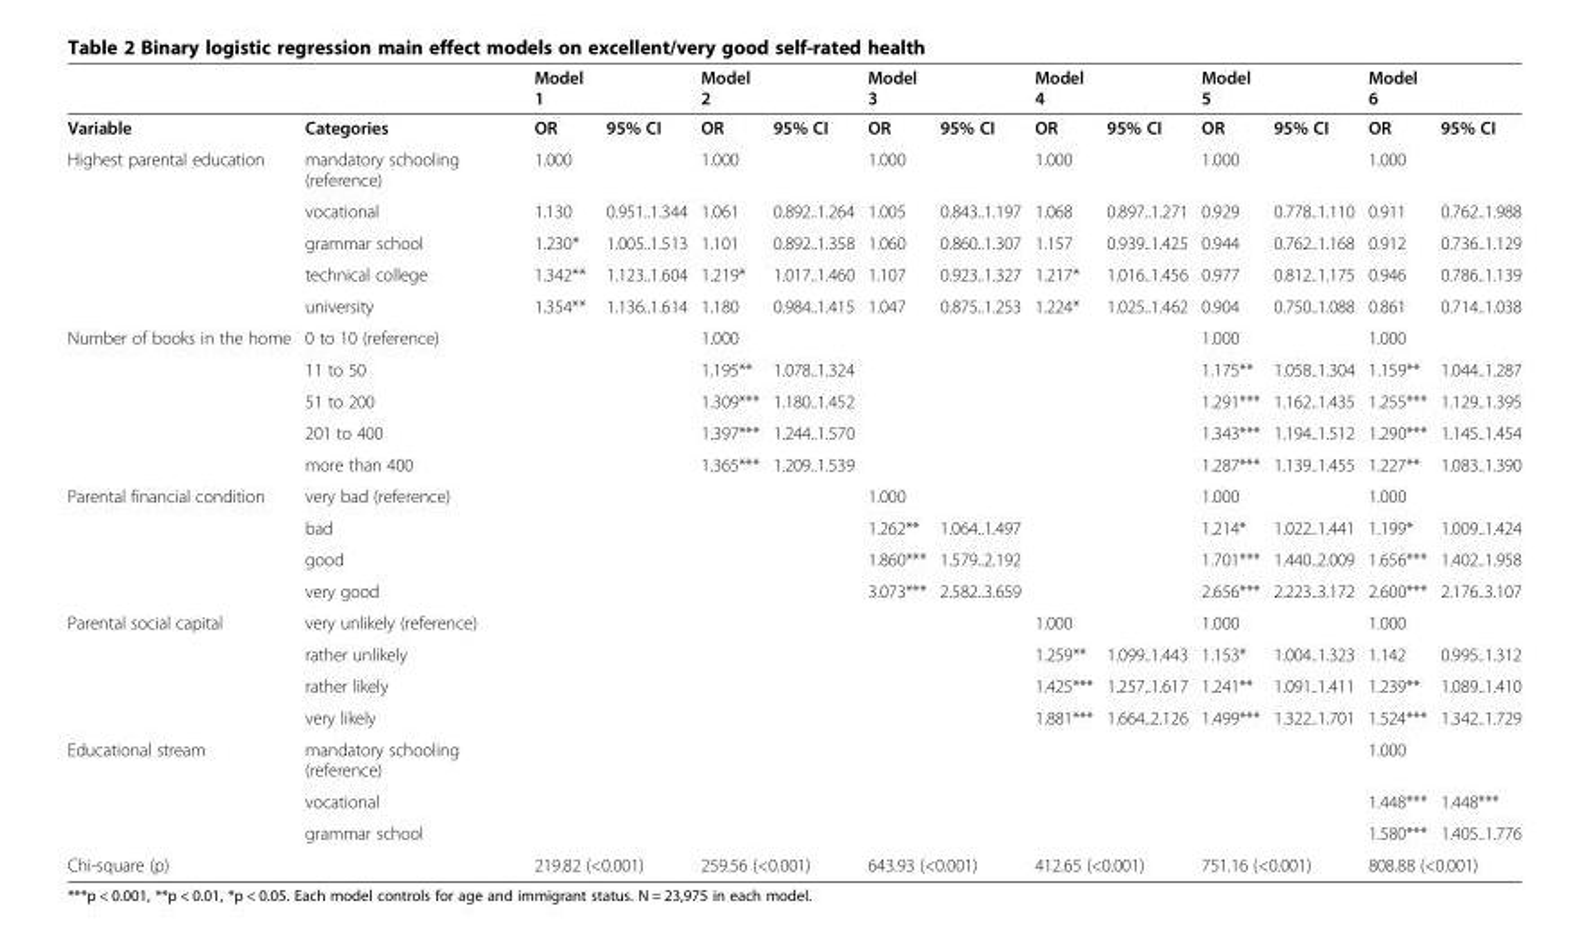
<table><thead><tr><td></td><td></td><td>Model 1</td><td></td><td>Model 2</td><td></td><td>Model 3</td><td></td><td>Model 4</td><td></td><td>Model 5</td><td></td><td>Model 6</td><td></td></tr></thead><tbody><tr><td>Variable</td><td>Categories</td><td>OR</td><td>95% CI</td><td>OR</td><td>95% CI</td><td>OR</td><td>95% CI</td><td>OR</td><td>95% CI</td><td>OR</td><td>95% CI</td><td>OR</td><td>95% CI</td></tr><tr><td rowspan="5">Highest parental education</td><td>mandatory schooling (reference)</td><td>1.000</td><td></td><td>1.000</td><td></td><td>1.000</td><td></td><td>1.000</td><td></td><td>1.000</td><td></td><td>1.000</td><td></td></tr><tr><td>vocational</td><td>1.130</td><td>0.951..1.344</td><td>1.061</td><td>0.892..1.264</td><td>1.005</td><td>0.843..1.197</td><td>1.068</td><td>0.897..1.271</td><td>0.929</td><td>0.778..1.110</td><td>0.911</td><td>0.762..1.988</td></tr><tr><td>grammar school</td><td>1.230*</td><td>1.005..1.513</td><td>1.101</td><td>0.892..1.358</td><td>1.060</td><td>0.860..1.307</td><td>1.157</td><td>0.939..1.425</td><td>0.944</td><td>0.762..1.168</td><td>0.912</td><td>0.736..1.129</td></tr><tr><td>technical college</td><td>1.342**</td><td>1.123..1.604</td><td>1.219*</td><td>1.017..1.460</td><td>1.107</td><td>0.923..1.327</td><td>1.217*</td><td>1.016..1.456</td><td>0.977</td><td>0.812..1.175</td><td>0.946</td><td>0.786..1.139</td></tr><tr><td>university</td><td>1.354**</td><td>1.136..1.614</td><td>1.180</td><td>0.984..1.415</td><td>1.047</td><td>0.875..1.253</td><td>1.224*</td><td>1.025..1.462</td><td>0.904</td><td>0.750..1.088</td><td>0.861</td><td>0.714..1.038</td></tr><tr><td rowspan="5">Number of books in the home</td><td>0 to 10 (reference)</td><td></td><td></td><td>1.000</td><td></td><td></td><td></td><td></td><td></td><td>1.000</td><td></td><td>1.000</td><td></td></tr><tr><td>11 to 50</td><td></td><td></td><td>1.195**</td><td>1.078..1.324</td><td></td><td></td><td></td><td></td><td>1.175**</td><td>1.058..1.304</td><td>1.159**</td><td>1.044..1.287</td></tr><tr><td>51 to 200</td><td></td><td></td><td>1.309***</td><td>1.180..1.452</td><td></td><td></td><td></td><td></td><td>1.291***</td><td>1.162..1.435</td><td>1.255***</td><td>1.129..1.395</td></tr><tr><td>201 to 400</td><td></td><td></td><td>1.397***</td><td>1.244..1.570</td><td></td><td></td><td></td><td></td><td>1.343***</td><td>1.194..1.512</td><td>1.290***</td><td>1.145..1.454</td></tr><tr><td>more than 400</td><td></td><td></td><td>1.365***</td><td>1.209..1.539</td><td></td><td></td><td></td><td></td><td>1.287***</td><td>1.139..1.455</td><td>1.227**</td><td>1.083..1.390</td></tr><tr><td rowspan="4">Parental financial condition</td><td>very bad (reference)</td><td></td><td></td><td></td><td></td><td>1.000</td><td></td><td></td><td></td><td>1.000</td><td></td><td>1.000</td><td></td></tr><tr><td>bad</td><td></td><td></td><td></td><td></td><td>1.262**</td><td>1.064..1.497</td><td></td><td></td><td>1.214*</td><td>1.022..1.441</td><td>1.199*</td><td>1.009..1.424</td></tr><tr><td>good</td><td></td><td></td><td></td><td></td><td>1.860***</td><td>1.579..2.192</td><td></td><td></td><td>1.701***</td><td>1.440..2.009</td><td>1.656***</td><td>1.402..1.958</td></tr><tr><td>very good</td><td></td><td></td><td></td><td></td><td>3.073***</td><td>2.582..3.659</td><td></td><td></td><td>2.656***</td><td>2.223..3.172</td><td>2.600***</td><td>2.176..3.107</td></tr><tr><td rowspan="4">Parental social capital</td><td>very unlikely (reference)</td><td></td><td></td><td></td><td></td><td></td><td></td><td>1.000</td><td></td><td>1.000</td><td></td><td>1.000</td><td></td></tr><tr><td>rather unlikely</td><td></td><td></td><td></td><td></td><td></td><td></td><td>1.259**</td><td>1.099..1.443</td><td>1.153*</td><td>1.004..1.323</td><td>1.142</td><td>0.995..1.312</td></tr><tr><td>rather likely</td><td></td><td></td><td></td><td></td><td></td><td></td><td>1.425***</td><td>1.257..1.617</td><td>1.241**</td><td>1.091..1.411</td><td>1.239**</td><td>1.089..1.410</td></tr><tr><td>very likely</td><td></td><td></td><td></td><td></td><td></td><td></td><td>1.881***</td><td>1.664..2.126</td><td>1.499***</td><td>1.322..1.701</td><td>1.524***</td><td>1.342..1.729</td></tr><tr><td rowspan="3">Educational stream</td><td>mandatory schooling (reference)</td><td></td><td></td><td></td><td></td><td></td><td></td><td></td><td></td><td></td><td></td><td>1.000</td><td></td></tr><tr><td>vocational</td><td></td><td></td><td></td><td></td><td></td><td></td><td></td><td></td><td></td><td></td><td>1.448***</td><td>1.448***</td></tr><tr><td>grammar school</td><td></td><td></td><td></td><td></td><td></td><td></td><td></td><td></td><td></td><td></td><td>1.580***</td><td>1.405..1.776</td></tr><tr><td>Chi-square (p)</td><td></td><td colspan="2">219.82 (&lt;0.001)</td><td colspan="2">259.56 (&lt;0.001)</td><td colspan="2">643.93 (&lt;0.001)</td><td colspan="2">412.65 (&lt;0.001)</td><td colspan="2">751.16 (&lt;0.001)</td><td colspan="2">808.88 (&lt;0.001)</td></tr></tbody></table>